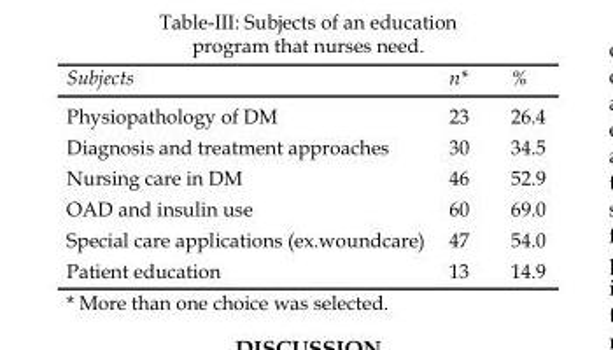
<table><thead><tr><td>Subjects</td><td>n*</td><td>%</td></tr></thead><tbody><tr><td>Physiopathology of DM</td><td>23</td><td>26.4</td></tr><tr><td>Diagnosis and treatment approaches</td><td>30</td><td>34.5</td></tr><tr><td>Nursing care in DM</td><td>46</td><td>52.9</td></tr><tr><td>OAD and insulin use</td><td>60</td><td>69.0</td></tr><tr><td>Special care applications (ex.woundcare)</td><td>47</td><td>54.0</td></tr><tr><td>Patient education</td><td>13</td><td>14.9</td></tr></tbody></table>